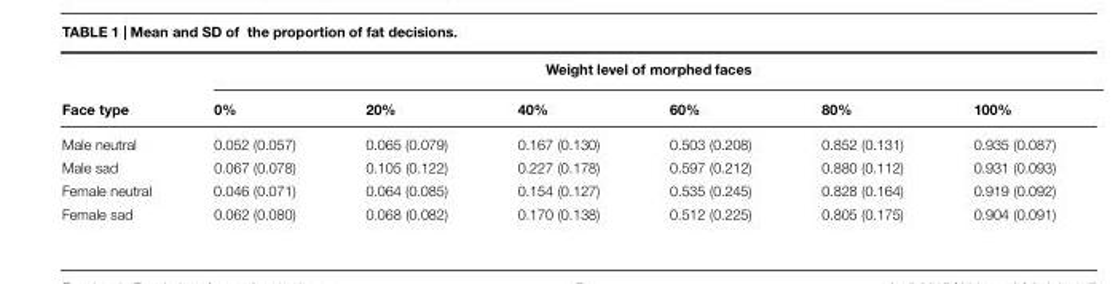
<table><thead><tr><td rowspan="2">Face type</td><td colspan="6">Weight level of morphed faces</td></tr><tr><td>0%</td><td>20%</td><td>40%</td><td>60%</td><td>80%</td><td>100%</td></tr></thead><tbody><tr><td>Male neutral</td><td>0.052 (0.057)</td><td>0.065 (0.079)</td><td>0.167 (0.130)</td><td>0.503 (0.208)</td><td>0.852 (0.131)</td><td>0.935 (0.087)</td></tr><tr><td>Male sad</td><td>0.067 (0.078)</td><td>0.105 (0.122)</td><td>0.227 (0.178)</td><td>0.597 (0.212)</td><td>0.880 (0.112)</td><td>0.931 (0.093)</td></tr><tr><td>Female neutral</td><td>0.046 (0.071)</td><td>0.064 (0.085)</td><td>0.154 (0.127)</td><td>0.535 (0.245)</td><td>0.828 (0.164)</td><td>0.919 (0.092)</td></tr><tr><td>Female sad</td><td>0.062 (0.080)</td><td>0.068 (0.082)</td><td>0.170 (0.138)</td><td>0.512 (0.225)</td><td>0.805 (0.175)</td><td>0.904 (0.091)</td></tr></tbody></table>